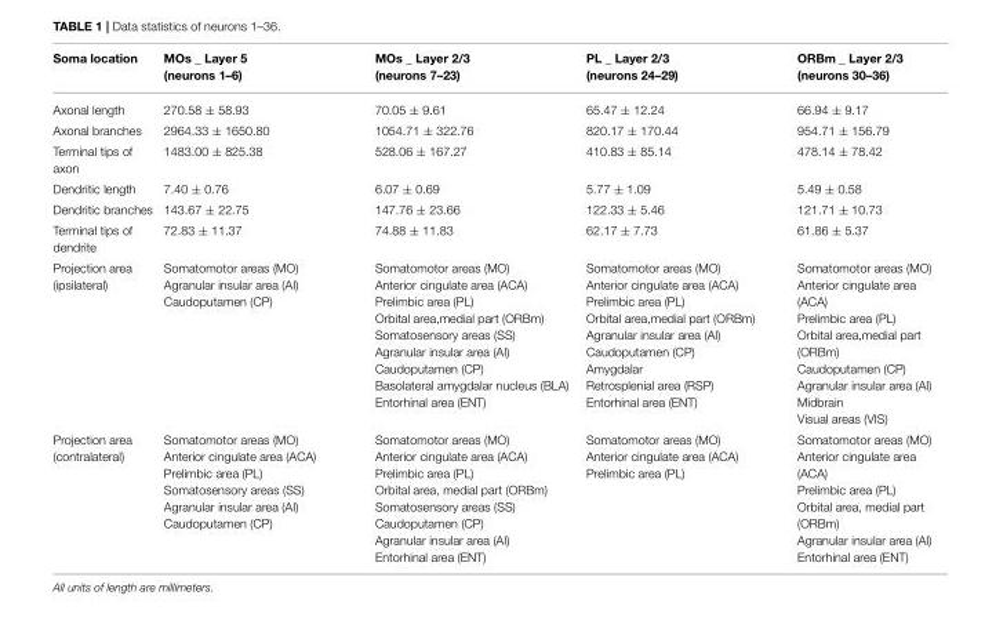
<table><thead><tr><td>Soma location</td><td>MOs _ Layer 5 (neurons 1–6)</td><td>MOs _ Layer 2/3 (neurons 7–23)</td><td>PL _ Layer 2/3 (neurons 24–29)</td><td>ORBm _ Layer 2/3 (neurons 30–36)</td></tr></thead><tbody><tr><td>Axonal length</td><td>270.58 ± 58.93</td><td>70.05 ± 9.61</td><td>65.47 ± 12.24</td><td>66.94 ± 9.17</td></tr><tr><td>Axonal branches</td><td>2964.33 ± 1650.80</td><td>1054.71 ± 322.76</td><td>820.17 ± 170.44</td><td>954.71 ± 156.79</td></tr><tr><td>Terminal tips of axon</td><td>1483.00 ± 825.38</td><td>528.06 ± 167.27</td><td>410.83 ± 85.14</td><td>478.14 ± 78.42</td></tr><tr><td>Dendritic length</td><td>7.40 ± 0.76</td><td>6.07 ± 0.69</td><td>5.77 ± 1.09</td><td>5.49 ± 0.58</td></tr><tr><td>Dendritic branches</td><td>143.67 ± 22.75</td><td>147.76 ± 23.66</td><td>122.33 ± 5.46</td><td>121.71 ± 10.73</td></tr><tr><td>Terminal tips of dendrite</td><td>72.83 ± 11.37</td><td>74.88 ± 11.83</td><td>62.17 ± 7.73</td><td>61.86 ± 5.37</td></tr><tr><td>Projection area (ipsilateral)</td><td>Somatomotor areas (MO) Agranular insular area (AI) Caudoputamen (CP)</td><td>Somatomotor areas (MO) Anterior cingulate area (ACA) Prelimbic area (PL) Orbital area,medial part (ORBm) Somatosensory areas (SS) Agranular insular area (AI) Caudoputamen (CP) Basolateral amygdalar nucleus (BLA) Entorhinal area (ENT)</td><td>Somatomotor areas (MO) Anterior cingulate area (ACA) Prelimbic area (PL) Orbital area,medial part (ORBm) Agranular insular area (AI) Caudoputamen (CP) Amygdalar Retrosplenial area (RSP) Entorhinal area (ENT)</td><td>Somatomotor areas (MO) Anterior cingulate area (ACA) Prelimbic area (PL) Orbital area,medial part (ORBm) Caudoputamen (CP) Agranular insular area (AI) Midbrain Visual areas (VIS)</td></tr><tr><td>Projection area (contralateral)</td><td>Somatomotor areas (MO) Anterior cingulate area (ACA) Prelimbic area (PL) Somatosensory areas (SS) Agranular insular area (AI) Caudoputamen (CP)</td><td>Somatomotor areas (MO) Anterior cingulate area (ACA) Prelimbic area (PL) Orbital area, medial part (ORBm) Somatosensory areas (SS) Caudoputamen (CP) Agranular insular area (AI) Entorhinal area (ENT)</td><td>Somatomotor areas (MO) Anterior cingulate area (ACA) Prelimbic area (PL)</td><td>Somatomotor areas (MO) Anterior cingulate area (ACA) Prelimbic area (PL) Orbital area, medial part (ORBm) Agranular insular area (AI) Entorhinal area (ENT)</td></tr></tbody></table>